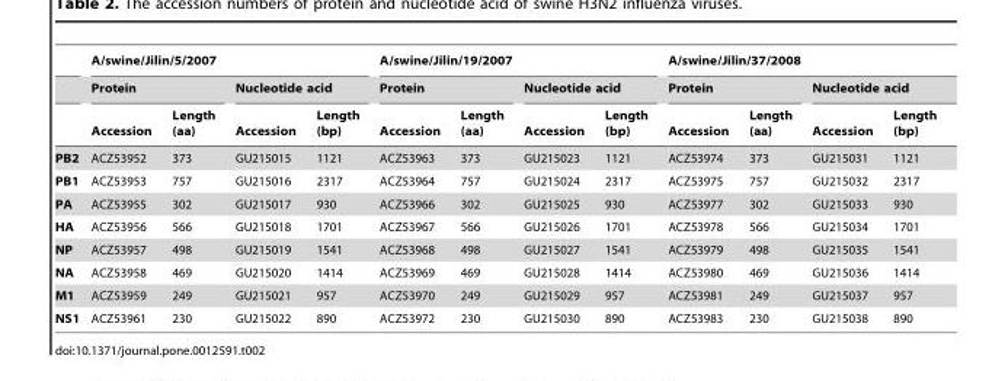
<table><thead><tr><td rowspan="3"></td><td colspan="4">A/swine/Jilin/5/2007</td><td colspan="4">A/swine/Jilin/19/2007</td><td colspan="4">A/swine/Jilin/37/2008</td></tr><tr><td colspan="2">Protein</td><td colspan="2">Nucleotide acid</td><td colspan="2">Protein</td><td colspan="2">Nucleotide acid</td><td colspan="2">Protein</td><td colspan="2">Nucleotide acid</td></tr><tr><td>Accession</td><td>Length (aa)</td><td>Accession</td><td>Length (bp)</td><td>Accession</td><td>Length (aa)</td><td>Accession</td><td>Length (bp)</td><td>Accession</td><td>Length (aa)</td><td>Accession</td><td>Length (bp)</td></tr></thead><tbody><tr><td>PB2</td><td>ACZ53952</td><td>373</td><td>GU215015</td><td>1121</td><td>ACZ53963</td><td>373</td><td>GU215023</td><td>1121</td><td>ACZ53974</td><td>373</td><td>GU215031</td><td>1121</td></tr><tr><td>PB1</td><td>ACZ53953</td><td>757</td><td>GU215016</td><td>2317</td><td>ACZ53964</td><td>757</td><td>GU215024</td><td>2317</td><td>ACZ53975</td><td>757</td><td>GU215032</td><td>2317</td></tr><tr><td>PA</td><td>ACZ53955</td><td>302</td><td>GU215017</td><td>930</td><td>ACZ53966</td><td>302</td><td>GU215025</td><td>930</td><td>ACZ53977</td><td>302</td><td>GU215033</td><td>930</td></tr><tr><td>HA</td><td>ACZ53956</td><td>566</td><td>GU215018</td><td>1701</td><td>ACZ53967</td><td>566</td><td>GU215026</td><td>1701</td><td>ACZ53978</td><td>566</td><td>GU215034</td><td>1701</td></tr><tr><td>NP</td><td>ACZ53957</td><td>498</td><td>GU215019</td><td>1541</td><td>ACZ53968</td><td>498</td><td>GU215027</td><td>1541</td><td>ACZ53979</td><td>498</td><td>GU215035</td><td>1541</td></tr><tr><td>NA</td><td>ACZ53958</td><td>469</td><td>GU215020</td><td>1414</td><td>ACZ53969</td><td>469</td><td>GU215028</td><td>1414</td><td>ACZ53980</td><td>469</td><td>GU215036</td><td>1414</td></tr><tr><td>M1</td><td>ACZ53959</td><td>249</td><td>GU215021</td><td>957</td><td>ACZ53970</td><td>249</td><td>GU215029</td><td>957</td><td>ACZ53981</td><td>249</td><td>GU215037</td><td>957</td></tr><tr><td>NS1</td><td>ACZ53961</td><td>230</td><td>GU215022</td><td>890</td><td>ACZ53972</td><td>230</td><td>GU215030</td><td>890</td><td>ACZ53983</td><td>230</td><td>GU215038</td><td>890</td></tr></tbody></table>